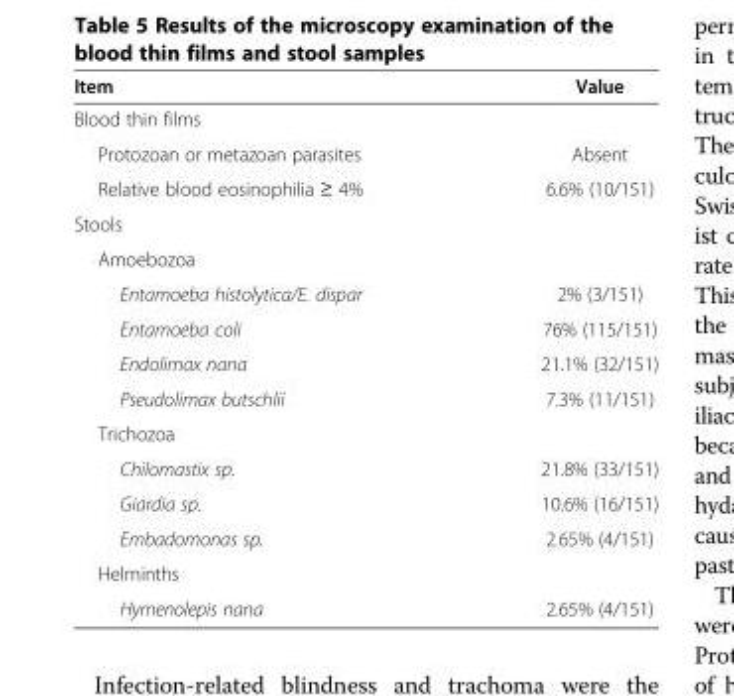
<table><thead><tr><td>Item</td><td>Value</td></tr></thead><tbody><tr><td colspan="2">Blood thin films</td></tr><tr><td>Protozoan or metazoan parasites</td><td>Absent</td></tr><tr><td>Relative blood eosinophilia ≥ 4%</td><td>6.6% (10/151)</td></tr><tr><td colspan="2">Stools</td></tr><tr><td colspan="2">Amoebozoa</td></tr><tr><td>Entamoeba histolytica/E. dispar</td><td>2% (3/151)</td></tr><tr><td>Entamoeba coli</td><td>76% (115/151)</td></tr><tr><td>Endolimax nana</td><td>21.1% (32/151)</td></tr><tr><td>Pseudolimax butschlii</td><td>7.3% (11/151)</td></tr><tr><td colspan="2">Trichozoa</td></tr><tr><td>Chilomastix sp.</td><td>21.8% (33/151)</td></tr><tr><td>Giardia sp.</td><td>10.6% (16/151)</td></tr><tr><td>Embadomonas sp.</td><td>2.65% (4/151)</td></tr><tr><td colspan="2">Helminths</td></tr><tr><td>Hymenolepis nana</td><td>2.65% (4/151)</td></tr></tbody></table>